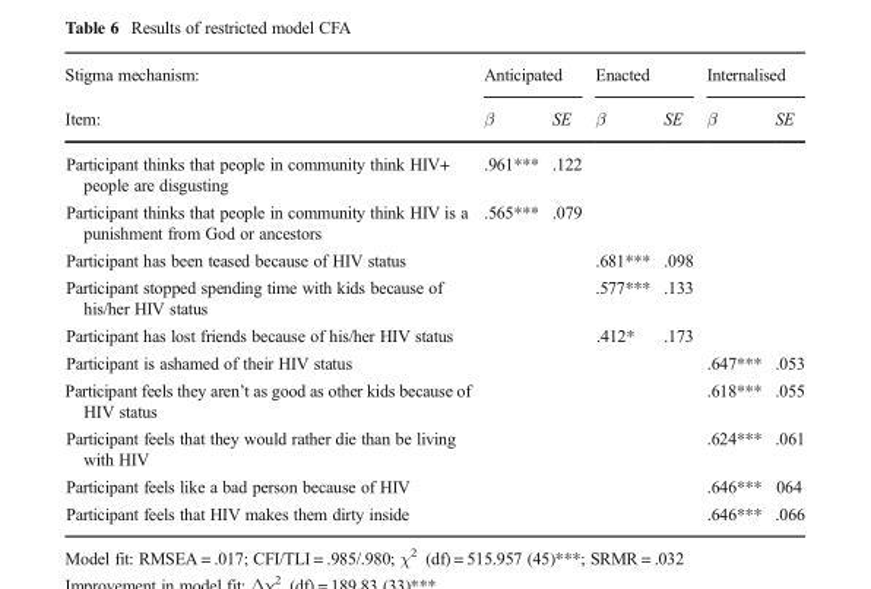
<table><thead><tr><td rowspan="2">Stigma mechanism: Item:</td><td colspan="2">Anticipated</td><td colspan="2">Enacted</td><td colspan="2">Internalised</td></tr><tr><td>β</td><td>SE</td><td>β</td><td>SE</td><td>β</td><td>SE</td></tr></thead><tbody><tr><td>Participant thinks that people in community think HIV+ people are disgusting</td><td>.961***</td><td>.122</td><td></td><td></td><td></td><td></td></tr><tr><td>Participant thinks that people in community think HIV is a punishment from God or ancestors</td><td>.565***</td><td>.079</td><td></td><td></td><td></td><td></td></tr><tr><td>Participant has been teased because of HIV status</td><td></td><td></td><td>.681***</td><td>.098</td><td></td><td></td></tr><tr><td>Participant stopped spending time with kids because of his/her HIV status</td><td></td><td></td><td>.577***</td><td>.133</td><td></td><td></td></tr><tr><td>Participant has lost friends because of his/her HIV status</td><td></td><td></td><td>.412*</td><td>.173</td><td></td><td></td></tr><tr><td>Participant is ashamed of their HIV status</td><td></td><td></td><td></td><td></td><td>.647***</td><td>.053</td></tr><tr><td>Participant feels they aren’t as good as other kids because of HIV status</td><td></td><td></td><td></td><td></td><td>.618***</td><td>.055</td></tr><tr><td>Participant feels that they would rather die than be living with HIV</td><td></td><td></td><td></td><td></td><td>.624***</td><td>.061</td></tr><tr><td>Participant feels like a bad person because of HIV</td><td></td><td></td><td></td><td></td><td>.646***</td><td>064</td></tr><tr><td>Participant feels that HIV makes them dirty inside</td><td></td><td></td><td></td><td></td><td>.646***</td><td>.066</td></tr></tbody></table>